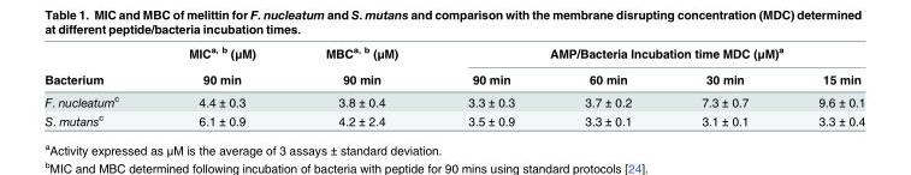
<table><thead><tr><td rowspan="2">Bacterium</td><td rowspan="2">MIC<sup>a, b</sup> (μM) 90 min</td><td rowspan="2">MBC<sup>a, b</sup> (μM) 90 min</td><td colspan="4">AMP/Bacteria Incubation time MDC (μM)<sup>a</sup></td></tr><tr><td>90 min</td><td>60 min</td><td>30 min</td><td>15 min</td></tr></thead><tbody><tr><td>F. nucleatum<sup>c</sup></td><td>4.4 ± 0.3</td><td>3.8 ± 0.4</td><td>3.3 ± 0.3</td><td>3.7 ± 0.2</td><td>7.3 ± 0.7</td><td>9.6 ± 0.1</td></tr><tr><td>S. mutans<sup>c</sup></td><td>6.1 ± 0.9</td><td>4.2 ± 2.4</td><td>3.5 ± 0.9</td><td>3.3 ± 0.1</td><td>3.1 ± 0.1</td><td>3.3 ± 0.4</td></tr></tbody></table>